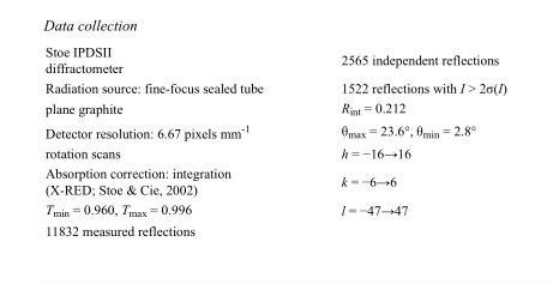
<table><tbody><tr><td>Stoe IPDSII diffractometer</td><td>2565 independent reflections</td></tr><tr><td>Radiation source: fine-focus sealed tube</td><td>1522 reflections with I &gt; 2σ(I)</td></tr><tr><td>plane graphite</td><td>R<sub>int</sub> = 0.212</td></tr><tr><td>Detector resolution: 6.67 pixels mm<sup>-1</sup></td><td>θ<sub>max</sub> = 23.6°, θ<sub>min</sub> = 2.8°</td></tr><tr><td>rotation scans</td><td>h = −16→16</td></tr><tr><td>Absorption correction: integration (X-RED; Stoe &amp; Cie, 2002)</td><td>k = −6→6</td></tr><tr><td>T<sub>min</sub> = 0.960, T<sub>max</sub> = 0.996</td><td>l = −47→47</td></tr><tr><td>11832 measured reflections</td><td></td></tr></tbody></table>